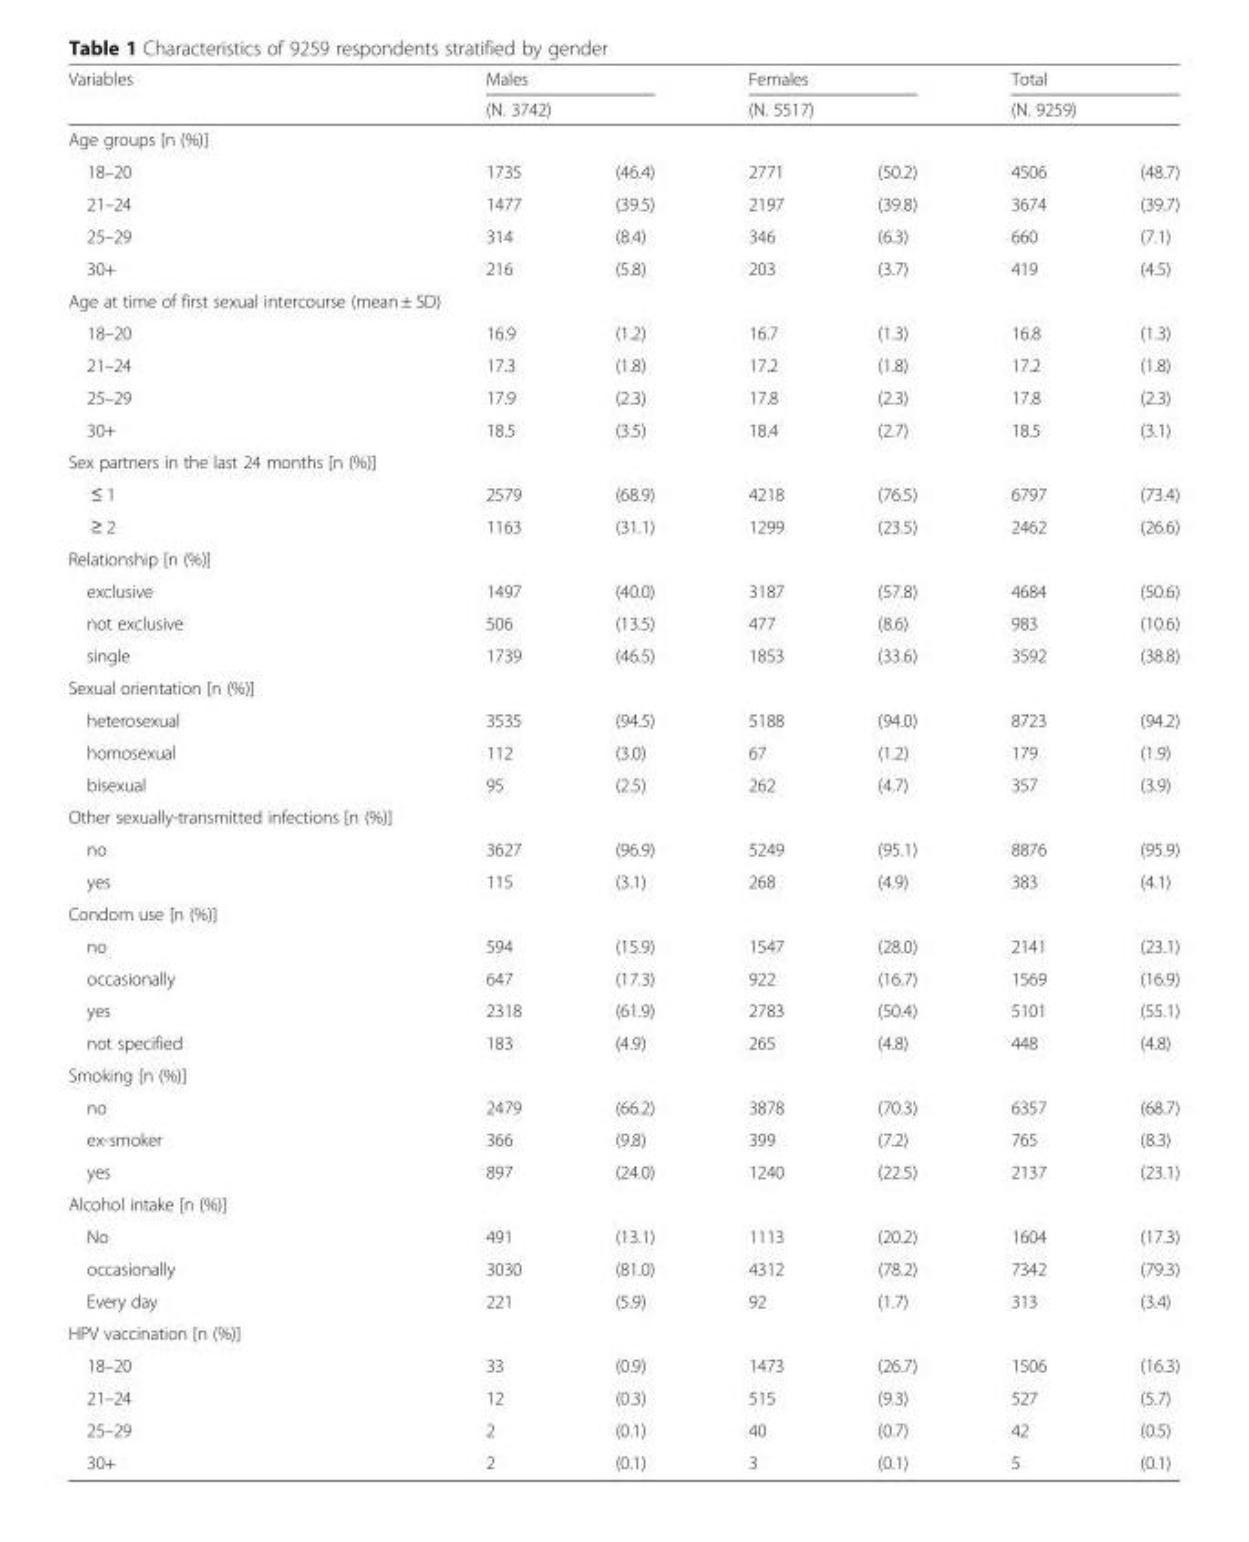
<table><thead><tr><td rowspan="2">Variables</td><td rowspan="2" colspan="2">Males (N. 3742)</td><td rowspan="2" colspan="2">Females (N. 5517)</td><td rowspan="2" colspan="2">Total (N. 9259)</td></tr><tr></tr><tr><td colspan="7">Age groups [n (%)]</td></tr><tr><td>18–20</td><td>1735</td><td>(46.4)</td><td>2771</td><td>(50.2)</td><td>4506</td><td>(48.7)</td></tr></thead><tbody><tr><td>21–24</td><td>1477</td><td>(39.5)</td><td>2197</td><td>(39.8)</td><td>3674</td><td>(39.7)</td></tr><tr><td>25–29</td><td>314</td><td>(8.4)</td><td>346</td><td>(6.3)</td><td>660</td><td>(7.1)</td></tr><tr><td>30+</td><td>216</td><td>(5.8)</td><td>203</td><td>(3.7)</td><td>419</td><td>(4.5)</td></tr><tr><td colspan="7">Age at time of first sexual intercourse (mean ± SD)</td></tr><tr><td>18–20</td><td>16.9</td><td>(1.2)</td><td>16.7</td><td>(1.3)</td><td>16.8</td><td>(1.3)</td></tr><tr><td>21–24</td><td>17.3</td><td>(1.8)</td><td>17.2</td><td>(1.8)</td><td>17.2</td><td>(1.8)</td></tr><tr><td>25–29</td><td>17.9</td><td>(2.3)</td><td>17.8</td><td>(2.3)</td><td>17.8</td><td>(2.3)</td></tr><tr><td>30+</td><td>18.5</td><td>(3.5)</td><td>18.4</td><td>(2.7)</td><td>18.5</td><td>(3.1)</td></tr><tr><td colspan="7">Sex partners in the last 24 months [n (%)]</td></tr><tr><td>≤ 1</td><td>2579</td><td>(68.9)</td><td>4218</td><td>(76.5)</td><td>6797</td><td>(73.4)</td></tr><tr><td>≥ 2</td><td>1163</td><td>(31.1)</td><td>1299</td><td>(23.5)</td><td>2462</td><td>(26.6)</td></tr><tr><td colspan="7">Relationship [n (%)]</td></tr><tr><td>exclusive</td><td>1497</td><td>(40.0)</td><td>3187</td><td>(57.8)</td><td>4684</td><td>(50.6)</td></tr><tr><td>not exclusive</td><td>506</td><td>(13.5)</td><td>477</td><td>(8.6)</td><td>983</td><td>(10.6)</td></tr><tr><td>single</td><td>1739</td><td>(46.5)</td><td>1853</td><td>(33.6)</td><td>3592</td><td>(38.8)</td></tr><tr><td colspan="7">Sexual orientation [n (%)]</td></tr><tr><td>heterosexual</td><td>3535</td><td>(94.5)</td><td>5188</td><td>(94.0)</td><td>8723</td><td>(94.2)</td></tr><tr><td>homosexual</td><td>112</td><td>(3.0)</td><td>67</td><td>(1.2)</td><td>179</td><td>(1.9)</td></tr><tr><td>bisexual</td><td>95</td><td>(2.5)</td><td>262</td><td>(4.7)</td><td>357</td><td>(3.9)</td></tr><tr><td colspan="7">Other sexually-transmitted infections [n (%)]</td></tr><tr><td>no</td><td>3627</td><td>(96.9)</td><td>5249</td><td>(95.1)</td><td>8876</td><td>(95.9)</td></tr><tr><td>yes</td><td>115</td><td>(3.1)</td><td>268</td><td>(4.9)</td><td>383</td><td>(4.1)</td></tr><tr><td colspan="7">Condom use [n (%)]</td></tr><tr><td>no</td><td>594</td><td>(15.9)</td><td>1547</td><td>(28.0)</td><td>2141</td><td>(23.1)</td></tr><tr><td>occasionally</td><td>647</td><td>(17.3)</td><td>922</td><td>(16.7)</td><td>1569</td><td>(16.9)</td></tr><tr><td>yes</td><td>2318</td><td>(61.9)</td><td>2783</td><td>(50.4)</td><td>5101</td><td>(55.1)</td></tr><tr><td>not specified</td><td>183</td><td>(4.9)</td><td>265</td><td>(4.8)</td><td>448</td><td>(4.8)</td></tr><tr><td colspan="7">Smoking [n (%)]</td></tr><tr><td>no</td><td>2479</td><td>(66.2)</td><td>3878</td><td>(70.3)</td><td>6357</td><td>(68.7)</td></tr><tr><td>ex-smoker</td><td>366</td><td>(9.8)</td><td>399</td><td>(7.2)</td><td>765</td><td>(8.3)</td></tr><tr><td>yes</td><td>897</td><td>(24.0)</td><td>1240</td><td>(22.5)</td><td>2137</td><td>(23.1)</td></tr><tr><td colspan="7">Alcohol intake [n (%)]</td></tr><tr><td>No</td><td>491</td><td>(13.1)</td><td>1113</td><td>(20.2)</td><td>1604</td><td>(17.3)</td></tr><tr><td>occasionally</td><td>3030</td><td>(81.0)</td><td>4312</td><td>(78.2)</td><td>7342</td><td>(79.3)</td></tr><tr><td>Every day</td><td>221</td><td>(5.9)</td><td>92</td><td>(1.7)</td><td>313</td><td>(3.4)</td></tr><tr><td colspan="7">HPV vaccination [n (%)]</td></tr><tr><td>18–20</td><td>33</td><td>(0.9)</td><td>1473</td><td>(26.7)</td><td>1506</td><td>(16.3)</td></tr><tr><td>21–24</td><td>12</td><td>(0.3)</td><td>515</td><td>(9.3)</td><td>527</td><td>(5.7)</td></tr><tr><td>25–29</td><td>2</td><td>(0.1)</td><td>40</td><td>(0.7)</td><td>42</td><td>(0.5)</td></tr><tr><td>30+</td><td>2</td><td>(0.1)</td><td>3</td><td>(0.1)</td><td>5</td><td>(0.1)</td></tr></tbody></table>